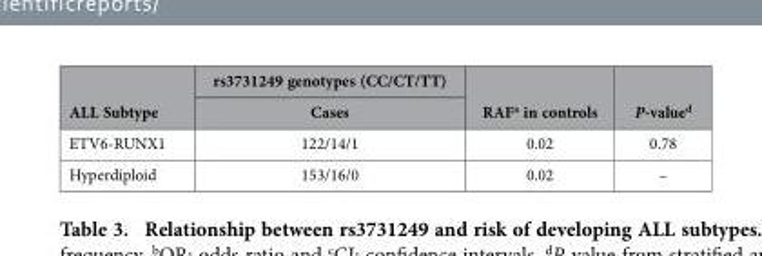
<table><thead><tr><td rowspan="2">ALL Subtype</td><td rowspan="2">rs3731249 genotypes (CC/CT/TT) Cases</td><td rowspan="2">RAF<sup>a</sup> in controls</td><td rowspan="2">P-value<sup>d</sup></td></tr><tr></tr></thead><tbody><tr><td>ETV6-RUNX1</td><td>122/14/1</td><td>0.02</td><td>0.78</td></tr><tr><td>Hyperdiploid</td><td>153/16/0</td><td>0.02</td><td>–</td></tr></tbody></table>